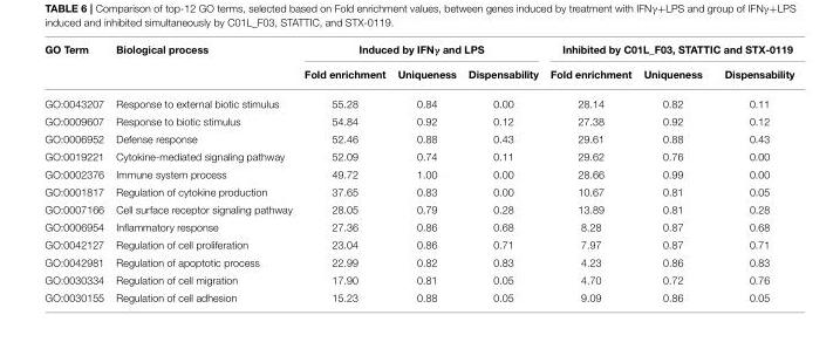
<table><thead><tr><td rowspan="2">GO Term</td><td rowspan="2">Biological process</td><td colspan="3">Induced by IFNγ and LPS</td><td colspan="3">Inhibited by C01L_F03, STATTIC and STX-0119</td></tr><tr><td>Fold enrichment</td><td>Uniqueness</td><td>Dispensability</td><td>Fold enrichment</td><td>Uniqueness</td><td>Dispensability</td></tr></thead><tbody><tr><td>GO:0043207</td><td>Response to external biotic stimulus</td><td>55.28</td><td>0.84</td><td>0.00</td><td>28.14</td><td>0.82</td><td>0.11</td></tr><tr><td>GO:0009607</td><td>Response to biotic stimulus</td><td>54.84</td><td>0.92</td><td>0.12</td><td>27.38</td><td>0.92</td><td>0.12</td></tr><tr><td>GO:0006952</td><td>Defense response</td><td>52.46</td><td>0.88</td><td>0.43</td><td>29.61</td><td>0.88</td><td>0.43</td></tr><tr><td>GO:0019221</td><td>Cytokine-mediated signaling pathway</td><td>52.09</td><td>0.74</td><td>0.11</td><td>29.62</td><td>0.76</td><td>0.00</td></tr><tr><td>GO:0002376</td><td>Immune system process</td><td>49.72</td><td>1.00</td><td>0.00</td><td>28.66</td><td>0.99</td><td>0.00</td></tr><tr><td>GO:0001817</td><td>Regulation of cytokine production</td><td>37.65</td><td>0.83</td><td>0.00</td><td>10.67</td><td>0.81</td><td>0.05</td></tr><tr><td>GO:0007166</td><td>Cell surface receptor signaling pathway</td><td>28.05</td><td>0.79</td><td>0.28</td><td>13.89</td><td>0.81</td><td>0.28</td></tr><tr><td>GO:0006954</td><td>Inflammatory response</td><td>27.36</td><td>0.86</td><td>0.68</td><td>8.28</td><td>0.87</td><td>0.68</td></tr><tr><td>GO:0042127</td><td>Regulation of cell proliferation</td><td>23.04</td><td>0.86</td><td>0.71</td><td>7.97</td><td>0.87</td><td>0.71</td></tr><tr><td>GO:0042981</td><td>Regulation of apoptotic process</td><td>22.99</td><td>0.82</td><td>0.83</td><td>4.23</td><td>0.86</td><td>0.83</td></tr><tr><td>GO:0030334</td><td>Regulation of cell migration</td><td>17.90</td><td>0.81</td><td>0.05</td><td>4.70</td><td>0.72</td><td>0.76</td></tr><tr><td>GO:0030155</td><td>Regulation of cell adhesion</td><td>15.23</td><td>0.88</td><td>0.05</td><td>9.09</td><td>0.86</td><td>0.05</td></tr></tbody></table>